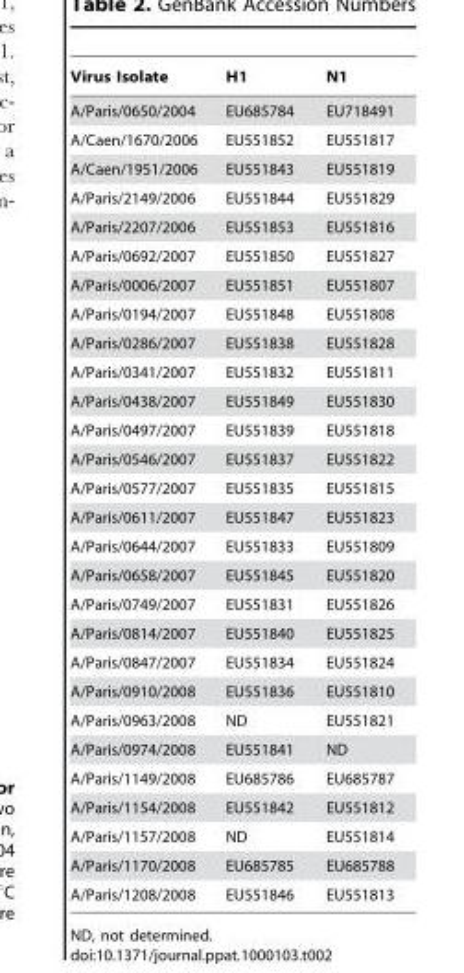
<table><thead><tr><td>Virus Isolate</td><td>H1</td><td>N1</td></tr></thead><tbody><tr><td>A/Paris/0650/2004</td><td>EU685784</td><td>EU718491</td></tr><tr><td>A/Caen/1670/2006</td><td>EU551852</td><td>EU551817</td></tr><tr><td>A/Caen/1951/2006</td><td>EU551843</td><td>EU551819</td></tr><tr><td>A/Paris/2149/2006</td><td>EU551844</td><td>EU551829</td></tr><tr><td>A/Paris/2207/2006</td><td>EU551853</td><td>EU551816</td></tr><tr><td>A/Paris/0692/2007</td><td>EU551850</td><td>EU551827</td></tr><tr><td>A/Paris/0006/2007</td><td>EU551851</td><td>EU551807</td></tr><tr><td>A/Paris/0194/2007</td><td>EU551848</td><td>EU551808</td></tr><tr><td>A/Paris/0286/2007</td><td>EU551838</td><td>EU551828</td></tr><tr><td>A/Paris/0341/2007</td><td>EU551832</td><td>EU551811</td></tr><tr><td>A/Paris/0438/2007</td><td>EU551849</td><td>EU551830</td></tr><tr><td>A/Paris/0497/2007</td><td>EU551839</td><td>EU551818</td></tr><tr><td>A/Paris/0546/2007</td><td>EU551837</td><td>EU551822</td></tr><tr><td>A/Paris/0577/2007</td><td>EU551835</td><td>EU551815</td></tr><tr><td>A/Paris/0611/2007</td><td>EU551847</td><td>EU551823</td></tr><tr><td>A/Paris/0644/2007</td><td>EU551833</td><td>EU551809</td></tr><tr><td>A/Paris/0658/2007</td><td>EU551845</td><td>EU551820</td></tr><tr><td>A/Paris/0749/2007</td><td>EU551831</td><td>EU551826</td></tr><tr><td>A/Paris/0814/2007</td><td>EU551840</td><td>EU551825</td></tr><tr><td>A/Paris/0847/2007</td><td>EU551834</td><td>EU551824</td></tr><tr><td>A/Paris/0910/2008</td><td>EU551836</td><td>EU551810</td></tr><tr><td>A/Paris/0963/2008</td><td>ND</td><td>EU551821</td></tr><tr><td>A/Paris/0974/2008</td><td>EU551841</td><td>ND</td></tr><tr><td>A/Paris/1149/2008</td><td>EU685786</td><td>EU685787</td></tr><tr><td>A/Paris/1154/2008</td><td>EU551842</td><td>EU551812</td></tr><tr><td>A/Paris/1157/2008</td><td>ND</td><td>EU551814</td></tr><tr><td>A/Paris/1170/2008</td><td>EU685785</td><td>EU685788</td></tr><tr><td>A/Paris/1208/2008</td><td>EU551846</td><td>EU551813</td></tr></tbody></table>